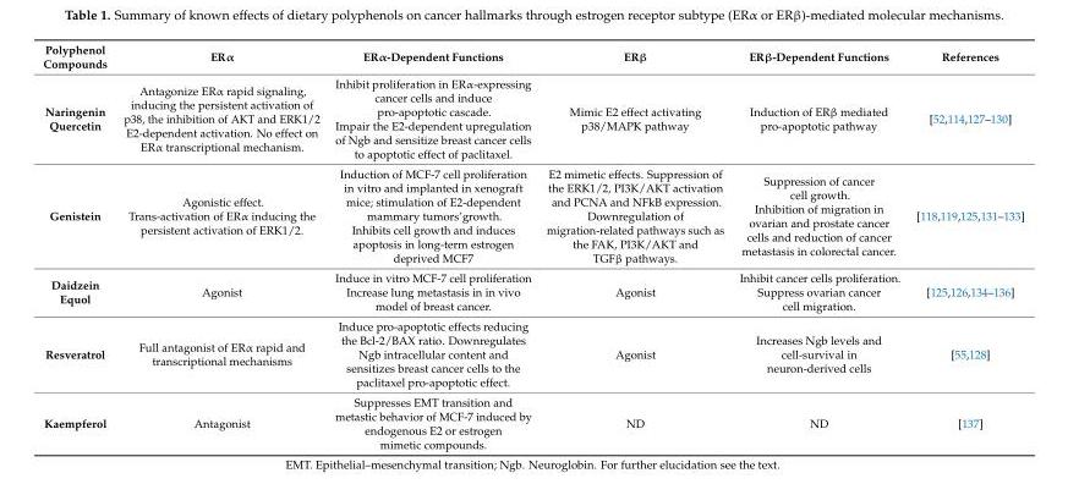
<table><thead><tr><td>Polyphenol Compounds</td><td>ERα</td><td>ERα-Dependent Functions</td><td>ERβ</td><td>ERβ-Dependent Functions</td><td>References</td></tr></thead><tbody><tr><td>Naringenin Quercetin</td><td>Antagonize ERα rapid signaling, inducing the persistent activation of p38, the inhibition of AKT and ERK1/2 E2-dependent activation. No effect on ERα transcriptional mechanism.</td><td>Inhibit proliferation in ERα-expressing cancer cells and induce pro-apoptotic cascade. Impair the E2-dependent upregulation of Ngb and sensitize breast cancer cells to apoptotic effect of paclitaxel.</td><td>Mimic E2 effect activating p38/MAPK pathway</td><td>Induction of ERβ mediated pro-apoptotic pathway</td><td>[52,114,127–130]</td></tr><tr><td>Genistein</td><td>Agonistic effect. Trans-activation of ERα inducing the persistent activation of ERK1/2.</td><td>Induction of MCF-7 cell proliferation in vitro and implanted in xenograft mice; stimulation of E2-dependent mammary tumors’growth. Inhibits cell growth and induces apoptosis in long-term estrogen deprived MCF7</td><td>E2 mimetic effects. Suppression of the ERK1/2, PI3K/AKT activation and PCNA and NFkB expression. Downregulation of migration-related pathways such as the FAK, PI3K/AKT and TGFβ pathways.</td><td>Suppression of cancer cell growth. Inhibition of migration in ovarian and prostate cancer cells and reduction of cancer metastasis in colorectal cancer.</td><td>[118,119,125,131–133]</td></tr><tr><td>Daidzein Equol</td><td>Agonist</td><td>Induce in vitro MCF-7 cell proliferation Increase lung metastasis in in vivo model of breast cancer.</td><td>Agonist</td><td>Inhibit cancer cells proliferation. Suppress ovarian cancer cell migration.</td><td>[125,126,134–136]</td></tr><tr><td>Resveratrol</td><td>Full antagonist of ERα rapid and transcriptional mechanisms</td><td>Induce pro-apoptotic effects reducing the Bcl-2/BAX ratio. Downregulates Ngb intracellular content and sensitizes breast cancer cells to the paclitaxel pro-apoptotic effect.</td><td>Agonist</td><td>Increases Ngb levels and cell-survival in neuron-derived cells</td><td>[55,128]</td></tr><tr><td>Kaempferol</td><td>Antagonist</td><td>Suppresses EMT transition and metastic behavior of MCF-7 induced by endogenous E2 or estrogen mimetic compounds.</td><td>ND</td><td>ND</td><td>[137]</td></tr></tbody></table>